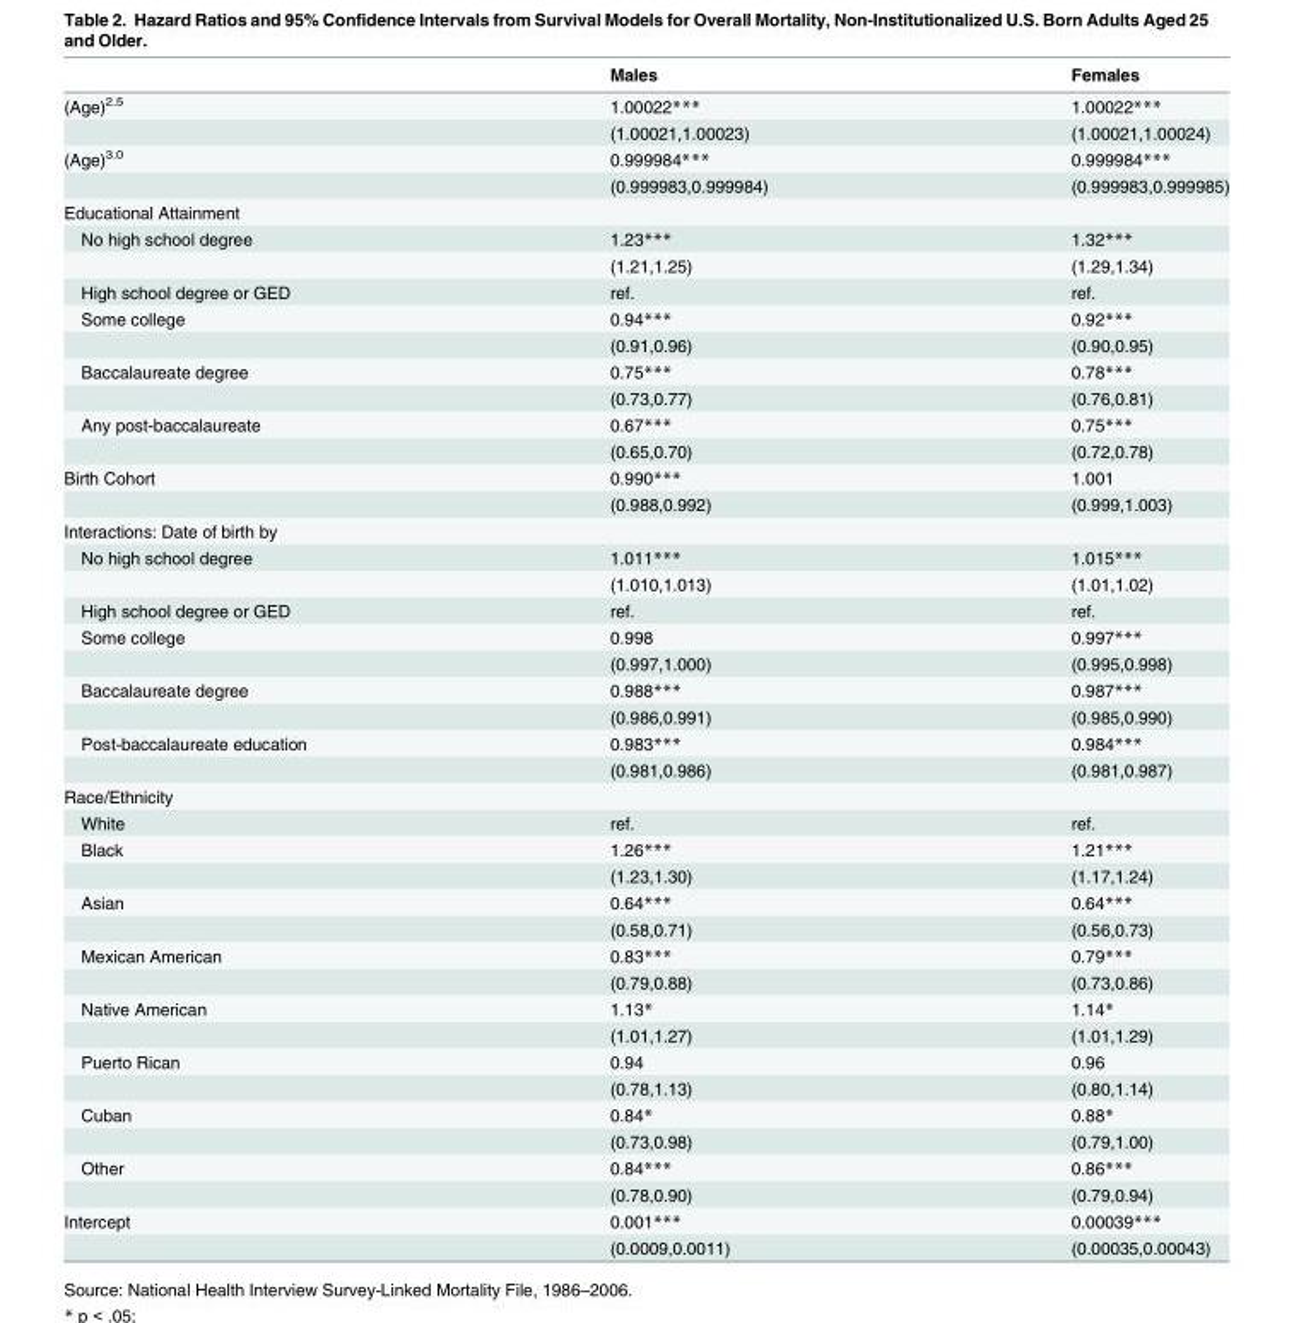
<table><thead><tr><td></td><td>Males</td><td>Females</td></tr></thead><tbody><tr><td rowspan="2">(Age)<sup>2.5</sup></td><td>1.00022***</td><td>1.00022***</td></tr><tr><td>(1.00021,1.00023)</td><td>(1.00021,1.00024)</td></tr><tr><td rowspan="2">(Age)<sup>3.0</sup></td><td>0.999984***</td><td>0.999984***</td></tr><tr><td>(0.999983,0.999984)</td><td>(0.999983,0.999985)</td></tr><tr><td colspan="3">Educational Attainment</td></tr><tr><td rowspan="2">No high school degree</td><td>1.23***</td><td>1.32***</td></tr><tr><td>(1.21,1.25)</td><td>(1.29,1.34)</td></tr><tr><td>High school degree or GED</td><td>ref.</td><td>ref.</td></tr><tr><td rowspan="2">Some college</td><td>0.94***</td><td>0.92***</td></tr><tr><td>(0.91,0.96)</td><td>(0.90,0.95)</td></tr><tr><td rowspan="2">Baccalaureate degree</td><td>0.75***</td><td>0.78***</td></tr><tr><td>(0.73,0.77)</td><td>(0.76,0.81)</td></tr><tr><td rowspan="2">Any post-baccalaureate</td><td>0.67***</td><td>0.75***</td></tr><tr><td>(0.65,0.70)</td><td>(0.72,0.78)</td></tr><tr><td rowspan="2">Birth Cohort</td><td>0.990***</td><td>1.001</td></tr><tr><td>(0.988,0.992)</td><td>(0.999,1.003)</td></tr><tr><td colspan="3">Interactions: Date of birth by</td></tr><tr><td rowspan="2">No high school degree</td><td>1.011***</td><td>1.015***</td></tr><tr><td>(1.010,1.013)</td><td>(1.01,1.02)</td></tr><tr><td>High school degree or GED</td><td>ref.</td><td>ref.</td></tr><tr><td rowspan="2">Some college</td><td>0.998</td><td>0.997***</td></tr><tr><td>(0.997,1.000)</td><td>(0.995,0.998)</td></tr><tr><td rowspan="2">Baccalaureate degree</td><td>0.988***</td><td>0.987***</td></tr><tr><td>(0.986,0.991)</td><td>(0.985,0.990)</td></tr><tr><td rowspan="2">Post-baccalaureate education</td><td>0.983***</td><td>0.984***</td></tr><tr><td>(0.981,0.986)</td><td>(0.981,0.987)</td></tr><tr><td colspan="3">Race/Ethnicity</td></tr><tr><td>White</td><td>ref.</td><td>ref.</td></tr><tr><td rowspan="2">Black</td><td>1.26***</td><td>1.21***</td></tr><tr><td>(1.23,1.30)</td><td>(1.17,1.24)</td></tr><tr><td rowspan="2">Asian</td><td>0.64***</td><td>0.64***</td></tr><tr><td>(0.58,0.71)</td><td>(0.56,0.73)</td></tr><tr><td rowspan="2">Mexican American</td><td>0.83***</td><td>0.79***</td></tr><tr><td>(0.79,0.88)</td><td>(0.73,0.86)</td></tr><tr><td rowspan="2">Native American</td><td>1.13*</td><td>1.14*</td></tr><tr><td>(1.01,1.27)</td><td>(1.01,1.29)</td></tr><tr><td rowspan="2">Puerto Rican</td><td>0.94</td><td>0.96</td></tr><tr><td>(0.78,1.13)</td><td>(0.80,1.14)</td></tr><tr><td rowspan="2">Cuban</td><td>0.84*</td><td>0.88*</td></tr><tr><td>(0.73,0.98)</td><td>(0.79,1.00)</td></tr><tr><td rowspan="2">Other</td><td>0.84***</td><td>0.86***</td></tr><tr><td>(0.78,0.90)</td><td>(0.79,0.94)</td></tr><tr><td rowspan="2">Intercept</td><td>0.001***</td><td>0.00039***</td></tr><tr><td>(0.0009,0.0011)</td><td>(0.00035,0.00043)</td></tr></tbody></table>